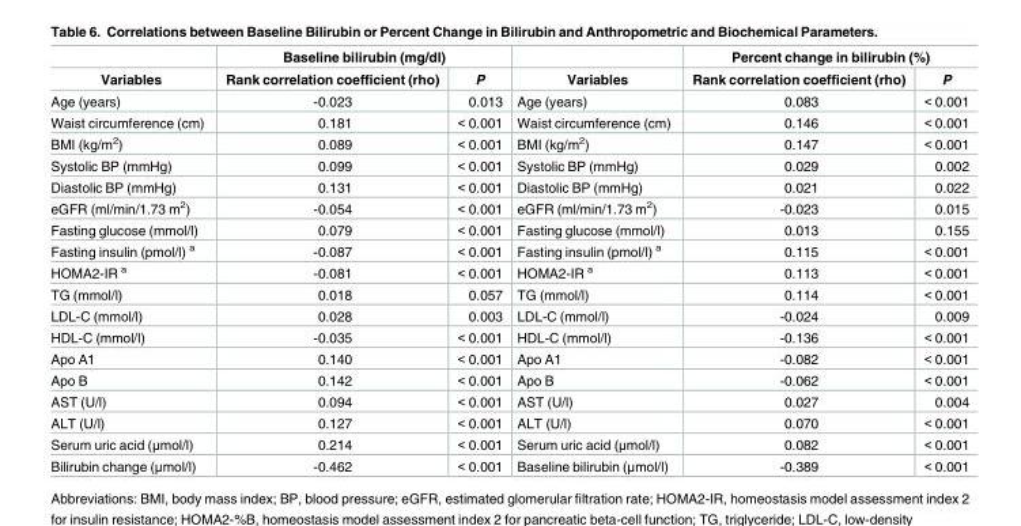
<table><thead><tr><td rowspan="2">Variables</td><td colspan="2">Baseline bilirubin (mg/dl)</td><td rowspan="2">Variables</td><td colspan="2">Percent change in bilirubin (%)</td></tr><tr><td>Rank correlation coefficient (rho)</td><td>P</td><td>Rank correlation coefficient (rho)</td><td>P</td></tr></thead><tbody><tr><td>Age (years)</td><td>-0.023</td><td>0.013</td><td>Age (years)</td><td>0.083</td><td>&lt; 0.001</td></tr><tr><td>Waist circumference (cm)</td><td>0.181</td><td>&lt; 0.001</td><td>Waist circumference (cm)</td><td>0.146</td><td>&lt; 0.001</td></tr><tr><td>BMI (kg/m<sup>2</sup>)</td><td>0.089</td><td>&lt; 0.001</td><td>BMI (kg/m<sup>2</sup>)</td><td>0.147</td><td>&lt; 0.001</td></tr><tr><td>Systolic BP (mmHg)</td><td>0.099</td><td>&lt; 0.001</td><td>Systolic BP (mmHg)</td><td>0.029</td><td>0.002</td></tr><tr><td>Diastolic BP (mmHg)</td><td>0.131</td><td>&lt; 0.001</td><td>Diastolic BP (mmHg)</td><td>0.021</td><td>0.022</td></tr><tr><td>eGFR (ml/min/1.73 m<sup>2</sup>)</td><td>-0.054</td><td>&lt; 0.001</td><td>eGFR (ml/min/1.73 m<sup>2</sup>)</td><td>-0.023</td><td>0.015</td></tr><tr><td>Fasting glucose (mmol/l)</td><td>0.079</td><td>&lt; 0.001</td><td>Fasting glucose (mmol/l)</td><td>0.013</td><td>0.155</td></tr><tr><td>Fasting insulin (pmol/l) <sup>a</sup></td><td>-0.087</td><td>&lt; 0.001</td><td>Fasting insulin (pmol/l) <sup>a</sup></td><td>0.115</td><td>&lt; 0.001</td></tr><tr><td>HOMA2-IR <sup>a</sup></td><td>-0.081</td><td>&lt; 0.001</td><td>HOMA2-IR <sup>a</sup></td><td>0.113</td><td>&lt; 0.001</td></tr><tr><td>TG (mmol/l)</td><td>0.018</td><td>0.057</td><td>TG (mmol/l)</td><td>0.114</td><td>&lt; 0.001</td></tr><tr><td>LDL-C (mmol/l)</td><td>0.028</td><td>0.003</td><td>LDL-C (mmol/l)</td><td>-0.024</td><td>0.009</td></tr><tr><td>HDL-C (mmol/l)</td><td>-0.035</td><td>&lt; 0.001</td><td>HDL-C (mmol/l)</td><td>-0.136</td><td>&lt; 0.001</td></tr><tr><td>Apo A1</td><td>0.140</td><td>&lt; 0.001</td><td>Apo A1</td><td>-0.082</td><td>&lt; 0.001</td></tr><tr><td>Apo B</td><td>0.142</td><td>&lt; 0.001</td><td>Apo B</td><td>-0.062</td><td>&lt; 0.001</td></tr><tr><td>AST (U/l)</td><td>0.094</td><td>&lt; 0.001</td><td>AST (U/l)</td><td>0.027</td><td>0.004</td></tr><tr><td>ALT (U/l)</td><td>0.127</td><td>&lt; 0.001</td><td>ALT (U/l)</td><td>0.070</td><td>&lt; 0.001</td></tr><tr><td>Serum uric acid (μmol/l)</td><td>0.214</td><td>&lt; 0.001</td><td>Serum uric acid (μmol/l)</td><td>0.082</td><td>&lt; 0.001</td></tr><tr><td>Bilirubin change (μmol/l)</td><td>-0.462</td><td>&lt; 0.001</td><td>Baseline bilirubin (μmol/l)</td><td>-0.389</td><td>&lt; 0.001</td></tr></tbody></table>